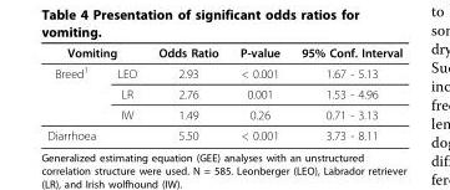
<table><thead><tr><td colspan="2">Vomiting</td><td rowspan="2">Odds Ratio 2.93</td><td rowspan="2">P-value &lt; 0.001</td><td rowspan="2">95% Conf. Interval 1.67 - 5.13</td></tr><tr><td>Breed<sup>1</sup></td><td>LEO</td></tr></thead><tbody><tr><td></td><td>LR</td><td>2.76</td><td>0.001</td><td>1.53 - 4.96</td></tr><tr><td></td><td>IW</td><td>1.49</td><td>0.26</td><td>0.71 - 3.13</td></tr><tr><td>Diarrhoea</td><td></td><td>5.50</td><td>&lt; 0.001</td><td>3.73 - 8.11</td></tr></tbody></table>